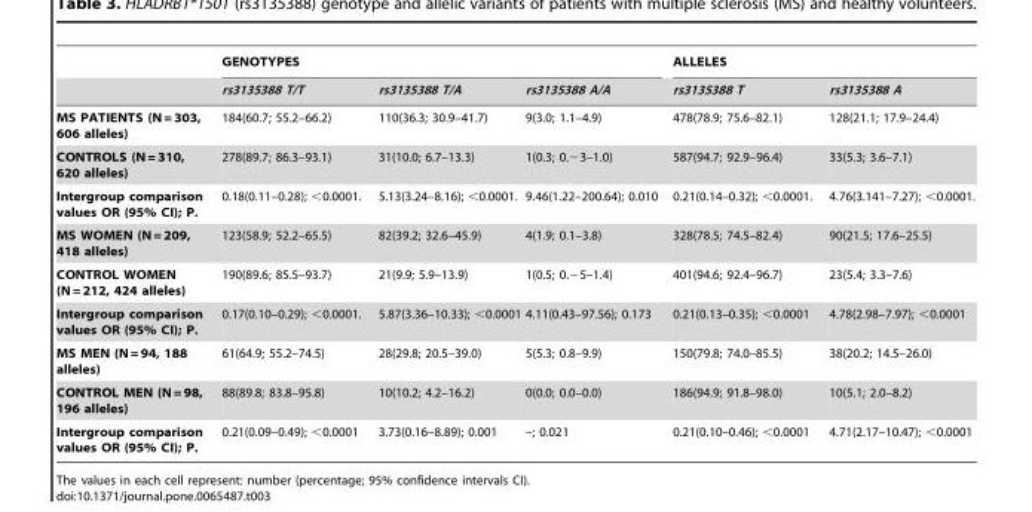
<table><thead><tr><td rowspan="2"></td><td colspan="3">GENOTYPES</td><td colspan="2">ALLELES</td></tr><tr><td>rs3135388 T/T</td><td>rs3135388 T/A</td><td>rs3135388 A/A</td><td>rs3135388 T</td><td>rs3135388 A</td></tr></thead><tbody><tr><td>MS PATIENTS (N = 303, 606 alleles)</td><td>184(60.7; 55.2–66.2)</td><td>110(36.3; 30.9–41.7)</td><td>9(3.0; 1.1–4.9)</td><td>478(78.9; 75.6–82.1)</td><td>128(21.1; 17.9–24.4)</td></tr><tr><td>CONTROLS (N = 310, 620 alleles)</td><td>278(89.7; 86.3–93.1)</td><td>31(10.0; 6.7–13.3)</td><td>1(0.3; 0.−3–1.0)</td><td>587(94.7; 92.9–96.4)</td><td>33(5.3; 3.6–7.1)</td></tr><tr><td>Intergroup comparison values OR (95% CI); P.</td><td>0.18(0.11–0.28); &lt;0.0001.</td><td>5.13(3.24–8.16); &lt;0.0001.</td><td>9.46(1.22–200.64); 0.010</td><td>0.21(0.14–0.32); &lt;0.0001.</td><td>4.76(3.141–7.27); &lt;0.0001.</td></tr><tr><td>MS WOMEN (N = 209, 418 alleles)</td><td>123(58.9; 52.2–65.5)</td><td>82(39.2; 32.6–45.9)</td><td>4(1.9; 0.1–3.8)</td><td>328(78.5; 74.5–82.4)</td><td>90(21.5; 17.6–25.5)</td></tr><tr><td>CONTROL WOMEN (N = 212, 424 alleles)</td><td>190(89.6; 85.5–93.7)</td><td>21(9.9; 5.9–13.9)</td><td>1(0.5; 0.−5–1.4)</td><td>401(94.6; 92.4–96.7)</td><td>23(5.4; 3.3–7.6)</td></tr><tr><td>Intergroup comparison values OR (95% CI); P.</td><td>0.17(0.10–0.29); &lt;0.0001.</td><td>5.87(3.36–10.33); &lt;0.0001</td><td>4.11(0.43–97.56); 0.173</td><td>0.21(0.13–0.35); &lt;0.0001</td><td>4.78(2.98–7.97); &lt;0.0001</td></tr><tr><td>MS MEN (N = 94, 188 alleles)</td><td>61(64.9; 55.2–74.5)</td><td>28(29.8; 20.5–39.0)</td><td>5(5.3; 0.8–9.9)</td><td>150(79.8; 74.0–85.5)</td><td>38(20.2; 14.5–26.0)</td></tr><tr><td>CONTROL MEN (N = 98, 196 alleles)</td><td>88(89.8; 83.8–95.8)</td><td>10(10.2; 4.2–16.2)</td><td>0(0.0; 0.0–0.0)</td><td>186(94.9; 91.8–98.0)</td><td>10(5.1; 2.0–8.2)</td></tr><tr><td>Intergroup comparison values OR (95% CI); P.</td><td>0.21(0.09–0.49); &lt;0.0001</td><td>3.73(0.16–8.89); 0.001</td><td>–; 0.021</td><td>0.21(0.10–0.46); &lt;0.0001</td><td>4.71(2.17–10.47); &lt;0.0001</td></tr></tbody></table>